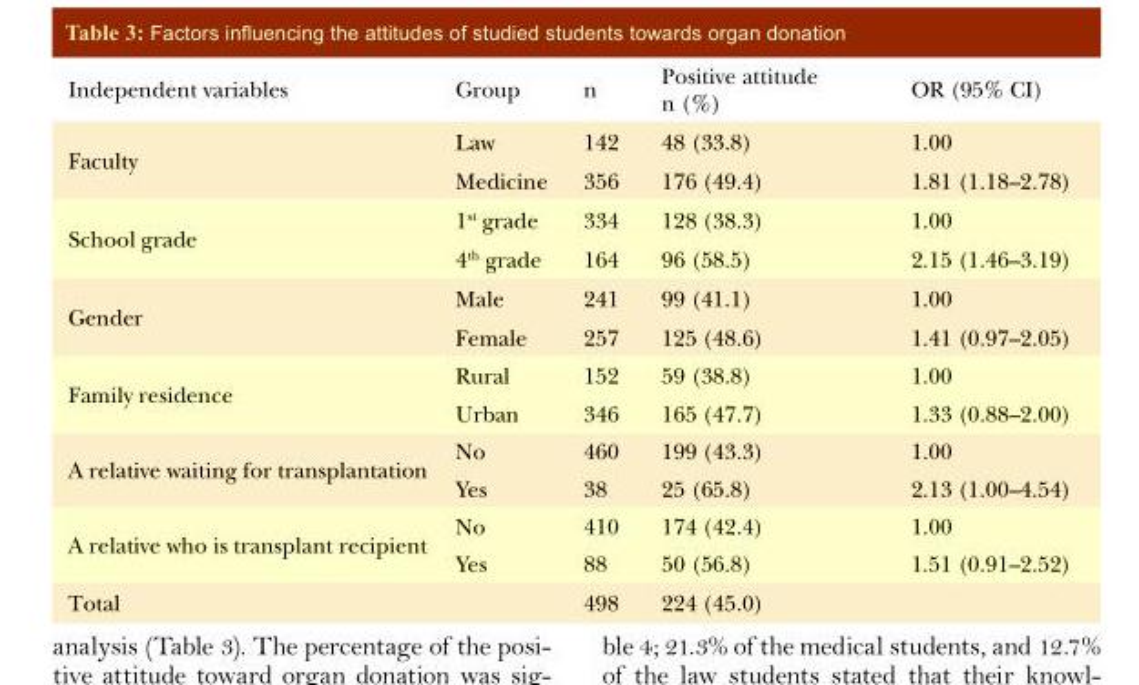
<table><thead><tr><td>Independent variables</td><td>Group</td><td>n</td><td>Positive attitude n (%)</td><td>OR (95% CI)</td></tr></thead><tbody><tr><td rowspan="2">Faculty</td><td>Law</td><td>142</td><td>48 (33.8)</td><td>1.00</td></tr><tr><td>Medicine</td><td>356</td><td>176 (49.4)</td><td>1.81 (1.18–2.78)</td></tr><tr><td rowspan="2">School grade</td><td>1<sup>st</sup> grade</td><td>334</td><td>128 (38.3)</td><td>1.00</td></tr><tr><td>4<sup>th</sup> grade</td><td>164</td><td>96 (58.5)</td><td>2.15 (1.46–3.19)</td></tr><tr><td rowspan="2">Gender</td><td>Male</td><td>241</td><td>99 (41.1)</td><td>1.00</td></tr><tr><td>Female</td><td>257</td><td>125 (48.6)</td><td>1.41 (0.97–2.05)</td></tr><tr><td rowspan="2">Family residence</td><td>Rural</td><td>152</td><td>59 (38.8)</td><td>1.00</td></tr><tr><td>Urban</td><td>346</td><td>165 (47.7)</td><td>1.33 (0.88–2.00)</td></tr><tr><td rowspan="2">A relative waiting for transplantation</td><td>No</td><td>460</td><td>199 (43.3)</td><td>1.00</td></tr><tr><td>Yes</td><td>38</td><td>25 (65.8)</td><td>2.13 (1.00–4.54)</td></tr><tr><td rowspan="2">A relative who is transplant recipient</td><td>No</td><td>410</td><td>174 (42.4)</td><td>1.00</td></tr><tr><td>Yes</td><td>88</td><td>50 (56.8)</td><td>1.51 (0.91–2.52)</td></tr><tr><td>Total</td><td></td><td>498</td><td>224 (45.0)</td><td></td></tr></tbody></table>